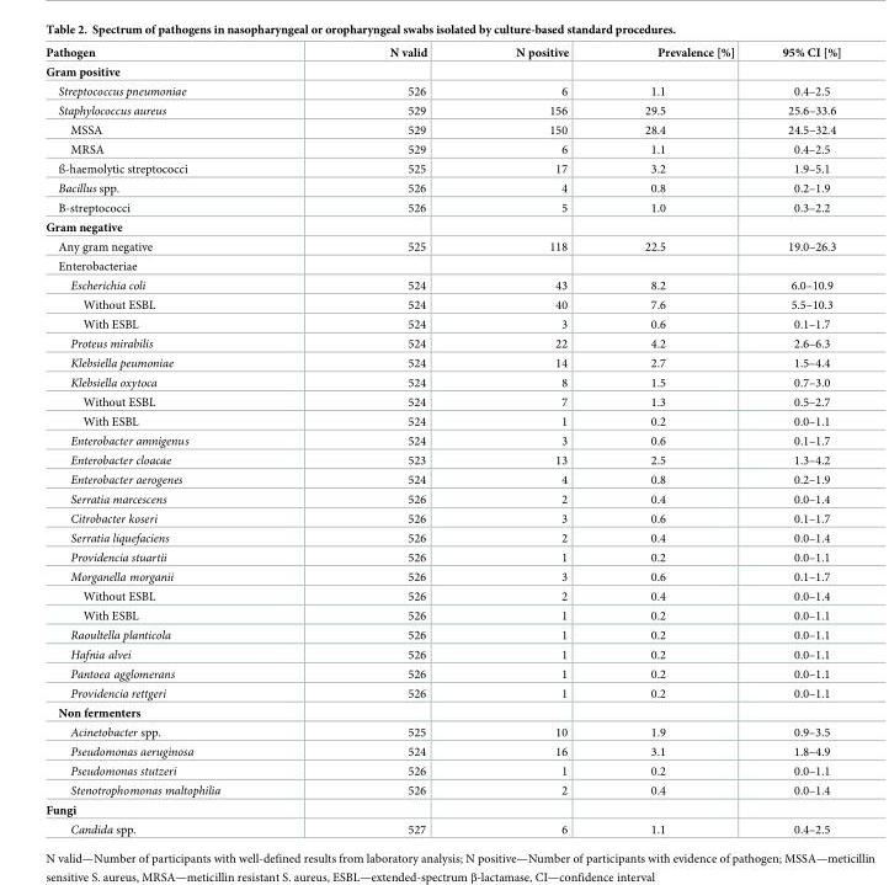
<table><thead><tr><td>Pathogen</td><td>N valid</td><td>N positive</td><td>Prevalence [%]</td><td>95% CI [%]</td></tr></thead><tbody><tr><td colspan="5">Gram positive</td></tr><tr><td>Streptococcus pneumoniae</td><td>526</td><td>6</td><td>1.1</td><td>0.4–2.5</td></tr><tr><td>Staphylococcus aureus</td><td>529</td><td>156</td><td>29.5</td><td>25.6–33.6</td></tr><tr><td>MSSA</td><td>529</td><td>150</td><td>28.4</td><td>24.5–32.4</td></tr><tr><td>MRSA</td><td>529</td><td>6</td><td>1.1</td><td>0.4–2.5</td></tr><tr><td>ß-haemolytic streptococci</td><td>525</td><td>17</td><td>3.2</td><td>1.9–5.1</td></tr><tr><td>Bacillus spp.</td><td>526</td><td>4</td><td>0.8</td><td>0.2–1.9</td></tr><tr><td>B-streptococci</td><td>526</td><td>5</td><td>1.0</td><td>0.3–2.2</td></tr><tr><td colspan="5">Gram negative</td></tr><tr><td>Any gram negative</td><td>525</td><td>118</td><td>22.5</td><td>19.0–26.3</td></tr><tr><td colspan="5">Enterobacteriae</td></tr><tr><td>Escherichia coli</td><td>524</td><td>43</td><td>8.2</td><td>6.0–10.9</td></tr><tr><td>Without ESBL</td><td>524</td><td>40</td><td>7.6</td><td>5.5–10.3</td></tr><tr><td>With ESBL</td><td>524</td><td>3</td><td>0.6</td><td>0.1–1.7</td></tr><tr><td>Proteus mirabilis</td><td>524</td><td>22</td><td>4.2</td><td>2.6–6.3</td></tr><tr><td>Klebsiella peumoniae</td><td>524</td><td>14</td><td>2.7</td><td>1.5–4.4</td></tr><tr><td>Klebsiella oxytoca</td><td>524</td><td>8</td><td>1.5</td><td>0.7–3.0</td></tr><tr><td>Without ESBL</td><td>524</td><td>7</td><td>1.3</td><td>0.5–2.7</td></tr><tr><td>With ESBL</td><td>524</td><td>1</td><td>0.2</td><td>0.0–1.1</td></tr><tr><td>Enterobacter amnigenus</td><td>524</td><td>3</td><td>0.6</td><td>0.1–1.7</td></tr><tr><td>Enterobacter cloacae</td><td>523</td><td>13</td><td>2.5</td><td>1.3–4.2</td></tr><tr><td>Enterobacter aerogenes</td><td>524</td><td>4</td><td>0.8</td><td>0.2–1.9</td></tr><tr><td>Serratia marcescens</td><td>526</td><td>2</td><td>0.4</td><td>0.0–1.4</td></tr><tr><td>Citrobacter koseri</td><td>526</td><td>3</td><td>0.6</td><td>0.1–1.7</td></tr><tr><td>Serratia liquefaciens</td><td>526</td><td>2</td><td>0.4</td><td>0.0–1.4</td></tr><tr><td>Providencia stuartii</td><td>526</td><td>1</td><td>0.2</td><td>0.0–1.1</td></tr><tr><td>Morganella morganii</td><td>526</td><td>3</td><td>0.6</td><td>0.1–1.7</td></tr><tr><td>Without ESBL</td><td>526</td><td>2</td><td>0.4</td><td>0.0–1.4</td></tr><tr><td>With ESBL</td><td>526</td><td>1</td><td>0.2</td><td>0.0–1.1</td></tr><tr><td>Raoultella planticola</td><td>526</td><td>1</td><td>0.2</td><td>0.0–1.1</td></tr><tr><td>Hafnia alvei</td><td>526</td><td>1</td><td>0.2</td><td>0.0–1.1</td></tr><tr><td>Pantoea agglomerans</td><td>526</td><td>1</td><td>0.2</td><td>0.0–1.1</td></tr><tr><td>Providencia rettgeri</td><td>526</td><td>1</td><td>0.2</td><td>0.0–1.1</td></tr><tr><td colspan="5">Non fermenters</td></tr><tr><td>Acinetobacter spp.</td><td>525</td><td>10</td><td>1.9</td><td>0.9–3.5</td></tr><tr><td>Pseudomonas aeruginosa</td><td>524</td><td>16</td><td>3.1</td><td>1.8–4.9</td></tr><tr><td>Pseudomonas stutzeri</td><td>526</td><td>1</td><td>0.2</td><td>0.0–1.1</td></tr><tr><td>Stenotrophomonas maltophilia</td><td>526</td><td>2</td><td>0.4</td><td>0.0–1.4</td></tr><tr><td colspan="5">Fungi</td></tr><tr><td>Candida spp.</td><td>527</td><td>6</td><td>1.1</td><td>0.4–2.5</td></tr></tbody></table>